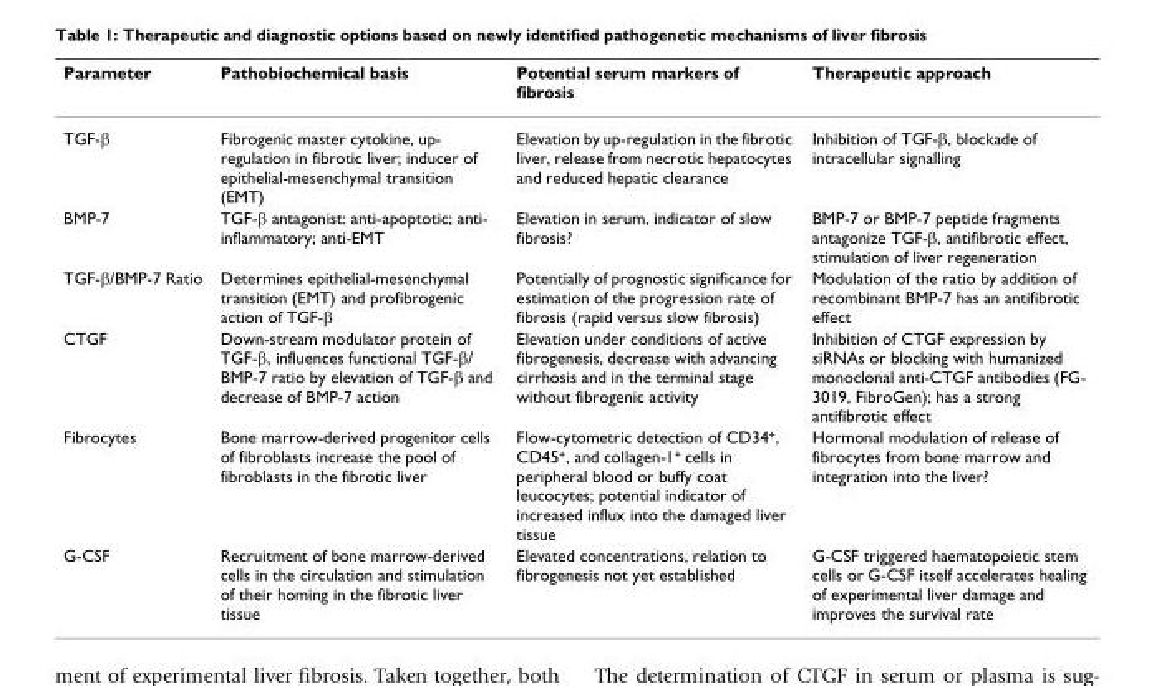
<table><thead><tr><td>Parameter</td><td>Pathobiochemical basis</td><td>Potential serum markers of fibrosis</td><td>Therapeutic approach</td></tr></thead><tbody><tr><td>TGF-β</td><td>Fibrogenic master cytokine, up- regulation in fibrotic liver; inducer of epithelial-mesenchymal transition (EMT)</td><td>Elevation by up-regulation in the fibrotic liver, release from necrotic hepatocytes and reduced hepatic clearance</td><td>Inhibition of TGF-β, blockade of intracellular signalling</td></tr><tr><td>BMP-7</td><td>TGF-β antagonist: anti-apoptotic; anti- inflammatory; anti-EMT</td><td>Elevation in serum, indicator of slow fibrosis?</td><td>BMP-7 or BMP-7 peptide fragments antagonize TGF-β, antifibrotic effect, stimulation of liver regeneration</td></tr><tr><td>TGF-β/BMP-7 Ratio</td><td>Determines epithelial-mesenchymal transition (EMT) and profibrogenic action of TGF-β</td><td>Potentially of prognostic significance for estimation of the progression rate of fibrosis (rapid versus slow fibrosis)</td><td>Modulation of the ratio by addition of recombinant BMP-7 has an antifibrotic effect</td></tr><tr><td>CTGF</td><td>Down-stream modulator protein of TGF-β, influences functional TGF-β/ BMP-7 ratio by elevation of TGF-β and decrease of BMP-7 action</td><td>Elevation under conditions of active fibrogenesis, decrease with advancing cirrhosis and in the terminal stage without fibrogenic activity</td><td>Inhibition of CTGF expression by siRNAs or blocking with humanized monoclonal anti-CTGF antibodies (FG- 3019, FibroGen); has a strong antifibrotic effect</td></tr><tr><td>Fibrocytes</td><td>Bone marrow-derived progenitor cells of fibroblasts increase the pool of fibroblasts in the fibrotic liver</td><td>Flow-cytometric detection of CD34<sup>+</sup>, CD45<sup>+</sup>, and collagen-1<sup>+</sup> cells in peripheral blood or buffy coat leucocytes; potential indicator of increased influx into the damaged liver tissue</td><td>Hormonal modulation of release of fibrocytes from bone marrow and integration into the liver?</td></tr><tr><td>G-CSF</td><td>Recruitment of bone marrow-derived cells in the circulation and stimulation of their homing in the fibrotic liver tissue</td><td>Elevated concentrations, relation to fibrogenesis not yet established</td><td>G-CSF triggered haematopoietic stem cells or G-CSF itself accelerates healing of experimental liver damage and improves the survival rate</td></tr></tbody></table>